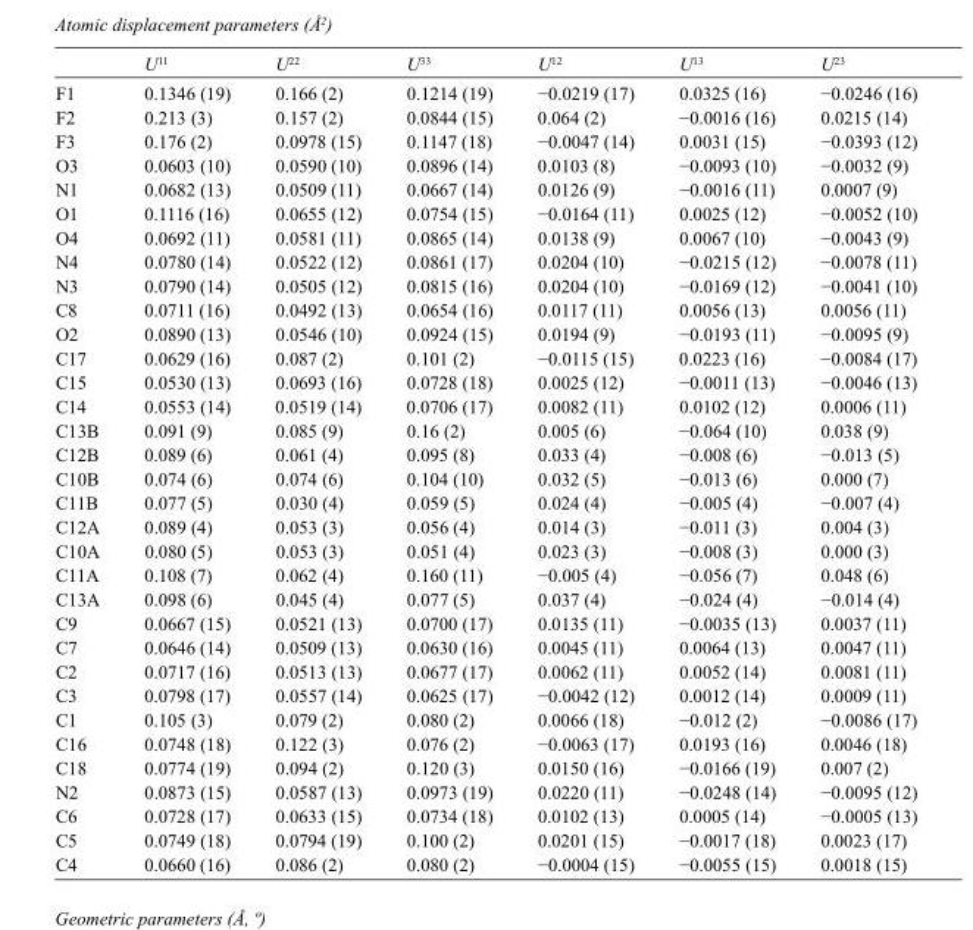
<table><thead><tr><td></td><td>U<sup>11</sup></td><td>U<sup>22</sup></td><td>U<sup>33</sup></td><td>U<sup>12</sup></td><td>U<sup>13</sup></td><td>U<sup>23</sup></td></tr></thead><tbody><tr><td>F1</td><td>0.1346 (19)</td><td>0.166 (2)</td><td>0.1214 (19)</td><td>−0.0219 (17)</td><td>0.0325 (16)</td><td>−0.0246 (16)</td></tr><tr><td>F2</td><td>0.213 (3)</td><td>0.157 (2)</td><td>0.0844 (15)</td><td>0.064 (2)</td><td>−0.0016 (16)</td><td>0.0215 (14)</td></tr><tr><td>F3</td><td>0.176 (2)</td><td>0.0978 (15)</td><td>0.1147 (18)</td><td>−0.0047 (14)</td><td>0.0031 (15)</td><td>−0.0393 (12)</td></tr><tr><td>O3</td><td>0.0603 (10)</td><td>0.0590 (10)</td><td>0.0896 (14)</td><td>0.0103 (8)</td><td>−0.0093 (10)</td><td>−0.0032 (9)</td></tr><tr><td>N1</td><td>0.0682 (13)</td><td>0.0509 (11)</td><td>0.0667 (14)</td><td>0.0126 (9)</td><td>−0.0016 (11)</td><td>0.0007 (9)</td></tr><tr><td>O1</td><td>0.1116 (16)</td><td>0.0655 (12)</td><td>0.0754 (15)</td><td>−0.0164 (11)</td><td>0.0025 (12)</td><td>−0.0052 (10)</td></tr><tr><td>O4</td><td>0.0692 (11)</td><td>0.0581 (11)</td><td>0.0865 (14)</td><td>0.0138 (9)</td><td>0.0067 (10)</td><td>−0.0043 (9)</td></tr><tr><td>N4</td><td>0.0780 (14)</td><td>0.0522 (12)</td><td>0.0861 (17)</td><td>0.0204 (10)</td><td>−0.0215 (12)</td><td>−0.0078 (11)</td></tr><tr><td>N3</td><td>0.0790 (14)</td><td>0.0505 (12)</td><td>0.0815 (16)</td><td>0.0204 (10)</td><td>−0.0169 (12)</td><td>−0.0041 (10)</td></tr><tr><td>C8</td><td>0.0711 (16)</td><td>0.0492 (13)</td><td>0.0654 (16)</td><td>0.0117 (11)</td><td>0.0056 (13)</td><td>0.0056 (11)</td></tr><tr><td>O2</td><td>0.0890 (13)</td><td>0.0546 (10)</td><td>0.0924 (15)</td><td>0.0194 (9)</td><td>−0.0193 (11)</td><td>−0.0095 (9)</td></tr><tr><td>C17</td><td>0.0629 (16)</td><td>0.087 (2)</td><td>0.101 (2)</td><td>−0.0115 (15)</td><td>0.0223 (16)</td><td>−0.0084 (17)</td></tr><tr><td>C15</td><td>0.0530 (13)</td><td>0.0693 (16)</td><td>0.0728 (18)</td><td>0.0025 (12)</td><td>−0.0011 (13)</td><td>−0.0046 (13)</td></tr><tr><td>C14</td><td>0.0553 (14)</td><td>0.0519 (14)</td><td>0.0706 (17)</td><td>0.0082 (11)</td><td>0.0102 (12)</td><td>0.0006 (11)</td></tr><tr><td>C13B</td><td>0.091 (9)</td><td>0.085 (9)</td><td>0.16 (2)</td><td>0.005 (6)</td><td>−0.064 (10)</td><td>0.038 (9)</td></tr><tr><td>C12B</td><td>0.089 (6)</td><td>0.061 (4)</td><td>0.095 (8)</td><td>0.033 (4)</td><td>−0.008 (6)</td><td>−0.013 (5)</td></tr><tr><td>C10B</td><td>0.074 (6)</td><td>0.074 (6)</td><td>0.104 (10)</td><td>0.032 (5)</td><td>−0.013 (6)</td><td>0.000 (7)</td></tr><tr><td>C11B</td><td>0.077 (5)</td><td>0.030 (4)</td><td>0.059 (5)</td><td>0.024 (4)</td><td>−0.005 (4)</td><td>−0.007 (4)</td></tr><tr><td>C12A</td><td>0.089 (4)</td><td>0.053 (3)</td><td>0.056 (4)</td><td>0.014 (3)</td><td>−0.011 (3)</td><td>0.004 (3)</td></tr><tr><td>C10A</td><td>0.080 (5)</td><td>0.053 (3)</td><td>0.051 (4)</td><td>0.023 (3)</td><td>−0.008 (3)</td><td>0.000 (3)</td></tr><tr><td>C11A</td><td>0.108 (7)</td><td>0.062 (4)</td><td>0.160 (11)</td><td>−0.005 (4)</td><td>−0.056 (7)</td><td>0.048 (6)</td></tr><tr><td>C13A</td><td>0.098 (6)</td><td>0.045 (4)</td><td>0.077 (5)</td><td>0.037 (4)</td><td>−0.024 (4)</td><td>−0.014 (4)</td></tr><tr><td>C9</td><td>0.0667 (15)</td><td>0.0521 (13)</td><td>0.0700 (17)</td><td>0.0135 (11)</td><td>−0.0035 (13)</td><td>0.0037 (11)</td></tr><tr><td>C7</td><td>0.0646 (14)</td><td>0.0509 (13)</td><td>0.0630 (16)</td><td>0.0045 (11)</td><td>0.0064 (13)</td><td>0.0047 (11)</td></tr><tr><td>C2</td><td>0.0717 (16)</td><td>0.0513 (13)</td><td>0.0677 (17)</td><td>0.0062 (11)</td><td>0.0052 (14)</td><td>0.0081 (11)</td></tr><tr><td>C3</td><td>0.0798 (17)</td><td>0.0557 (14)</td><td>0.0625 (17)</td><td>−0.0042 (12)</td><td>0.0012 (14)</td><td>0.0009 (11)</td></tr><tr><td>C1</td><td>0.105 (3)</td><td>0.079 (2)</td><td>0.080 (2)</td><td>0.0066 (18)</td><td>−0.012 (2)</td><td>−0.0086 (17)</td></tr><tr><td>C16</td><td>0.0748 (18)</td><td>0.122 (3)</td><td>0.076 (2)</td><td>−0.0063 (17)</td><td>0.0193 (16)</td><td>0.0046 (18)</td></tr><tr><td>C18</td><td>0.0774 (19)</td><td>0.094 (2)</td><td>0.120 (3)</td><td>0.0150 (16)</td><td>−0.0166 (19)</td><td>0.007 (2)</td></tr><tr><td>N2</td><td>0.0873 (15)</td><td>0.0587 (13)</td><td>0.0973 (19)</td><td>0.0220 (11)</td><td>−0.0248 (14)</td><td>−0.0095 (12)</td></tr><tr><td>C6</td><td>0.0728 (17)</td><td>0.0633 (15)</td><td>0.0734 (18)</td><td>0.0102 (13)</td><td>0.0005 (14)</td><td>−0.0005 (13)</td></tr><tr><td>C5</td><td>0.0749 (18)</td><td>0.0794 (19)</td><td>0.100 (2)</td><td>0.0201 (15)</td><td>−0.0017 (18)</td><td>0.0023 (17)</td></tr><tr><td>C4</td><td>0.0660 (16)</td><td>0.086 (2)</td><td>0.080 (2)</td><td>−0.0004 (15)</td><td>−0.0055 (15)</td><td>0.0018 (15)</td></tr></tbody></table>